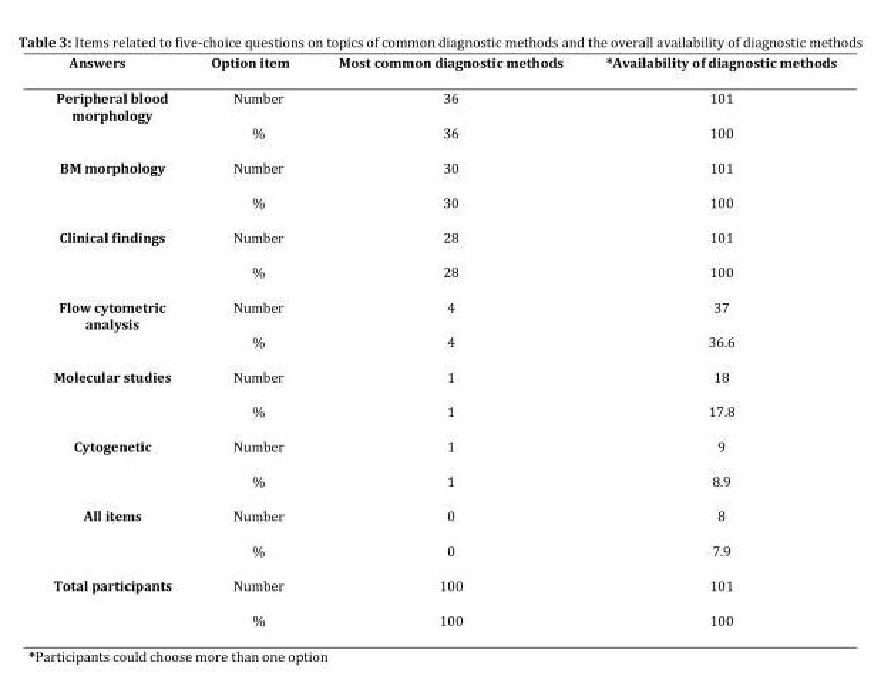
<table><thead><tr><td>Answers</td><td>Option item</td><td>Most common diagnostic methods</td><td>*Availability of diagnostic methods</td></tr></thead><tbody><tr><td rowspan="2">Peripheral blood morphology</td><td>Number</td><td>36</td><td>101</td></tr><tr><td>%</td><td>36</td><td>100</td></tr><tr><td rowspan="2">BM morphology</td><td>Number</td><td>30</td><td>101</td></tr><tr><td>%</td><td>30</td><td>100</td></tr><tr><td rowspan="2">Clinical findings</td><td>Number</td><td>28</td><td>101</td></tr><tr><td>%</td><td>28</td><td>100</td></tr><tr><td rowspan="2">Flow cytometric analysis</td><td>Number</td><td>4</td><td>37</td></tr><tr><td>%</td><td>4</td><td>36.6</td></tr><tr><td rowspan="2">Molecular studies</td><td>Number</td><td>1</td><td>18</td></tr><tr><td>%</td><td>1</td><td>17.8</td></tr><tr><td rowspan="2">Cytogenetic</td><td>Number</td><td>1</td><td>9</td></tr><tr><td>%</td><td>1</td><td>8.9</td></tr><tr><td rowspan="2">All items</td><td>Number</td><td>0</td><td>8</td></tr><tr><td>%</td><td>0</td><td>7.9</td></tr><tr><td rowspan="2">Total participants</td><td>Number</td><td>100</td><td>101</td></tr><tr><td>%</td><td>100</td><td>100</td></tr></tbody></table>